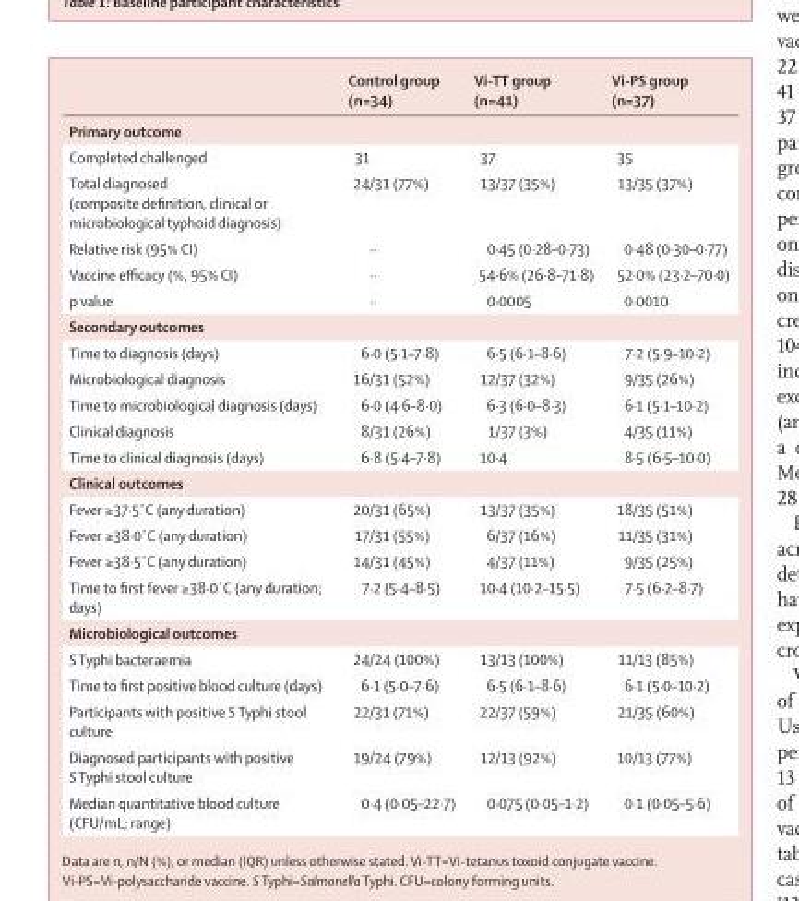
<table><thead><tr><td></td><td>Control group (n=34)</td><td>Vi-TT group (n=41)</td><td>Vi-PS group (n=37)</td></tr></thead><tbody><tr><td colspan="4">Primary outcome</td></tr><tr><td>Completed challenged</td><td>31</td><td>37</td><td>35</td></tr><tr><td>Total diagnosed (composite definition, clinical or microbiological typhoid diagnosis)</td><td>24/31 (77%)</td><td>13/37 (35%)</td><td>13/35 (37%)</td></tr><tr><td>Relative risk (95% CI)</td><td>··</td><td>0·45 (0·28–0·73)</td><td>0·48 (0·30–0·77)</td></tr><tr><td>Vaccine efficacy (%, 95% CI)</td><td>··</td><td>54·6% (26·8–71·8)</td><td>52·0% (23·2–70·0)</td></tr><tr><td>p value</td><td>··</td><td>0·0005</td><td>0·0010</td></tr><tr><td colspan="4">Secondary outcomes</td></tr><tr><td>Time to diagnosis (days)</td><td>6·0 (5·1–7·8)</td><td>6·5 (6·1–8·6)</td><td>7·2 (5·9–10·2)</td></tr><tr><td>Microbiological diagnosis</td><td>16/31 (52%)</td><td>12/37 (32%)</td><td>9/35 (26%)</td></tr><tr><td>Time to microbiological diagnosis (days)</td><td>6·0 (4·6–8·0)</td><td>6·3 (6·0–8·3)</td><td>6·1 (5·1–10·2)</td></tr><tr><td>Clinical diagnosis</td><td>8/31 (26%)</td><td>1/37 (3%)</td><td>4/35 (11%)</td></tr><tr><td>Time to clinical diagnosis (days)</td><td>6·8 (5·4–7·8)</td><td>10·4</td><td>8·5 (6·5–10·0)</td></tr><tr><td colspan="4">Clinical outcomes</td></tr><tr><td>Fever ≥37·5˚C (any duration)</td><td>20/31 (65%)</td><td>13/37 (35%)</td><td>18/35 (51%)</td></tr><tr><td>Fever ≥38·0˚C (any duration)</td><td>17/31 (55%)</td><td>6/37 (16%)</td><td>11/35 (31%)</td></tr><tr><td>Fever ≥38·5˚C (any duration)</td><td>14/31 (45%)</td><td>4/37 (11%)</td><td>9/35 (25%)</td></tr><tr><td>Time to first fever ≥38·0˚C (any duration; days)</td><td>7·2 (5·4–8·5)</td><td>10·4 (10·2–15·5)</td><td>7·5 (6·2–8·7)</td></tr><tr><td colspan="4">Microbiological outcomes</td></tr><tr><td>S Typhi bacteraemia</td><td>24/24 (100%)</td><td>13/13 (100%)</td><td>11/13 (85%)</td></tr><tr><td>Time to first positive blood culture (days)</td><td>6·1 (5·0–7·6)</td><td>6·5 (6·1–8·6)</td><td>6·1 (5·0–10·2)</td></tr><tr><td>Participants with positive S Typhi stool culture</td><td>22/31 (71%)</td><td>22/37 (59%)</td><td>21/35 (60%)</td></tr><tr><td>Diagnosed participants with positive S Typhi stool culture</td><td>19/24 (79%)</td><td>12/13 (92%)</td><td>10/13 (77%)</td></tr><tr><td>Median quantitative blood culture (CFU/mL; range)</td><td>0·4 (0·05–22·7)</td><td>0·075 (0·05–1·2)</td><td>0·1 (0·05–5·6)</td></tr></tbody></table>